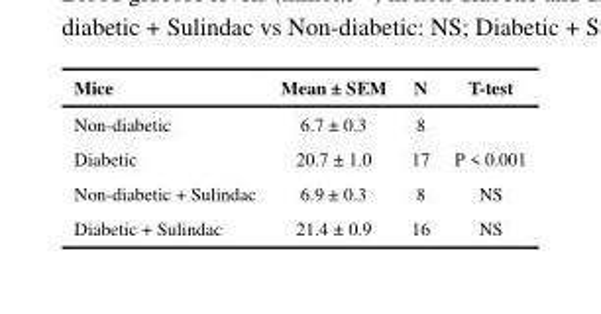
<table><thead><tr><td>Mice</td><td>Mean ± SEM</td><td>N</td><td>T-test</td></tr></thead><tbody><tr><td>Non-diabetic</td><td>6.7 ± 0.3</td><td>8</td><td></td></tr><tr><td>Diabetic</td><td>20.7 ± 1.0</td><td>17</td><td>P &lt; 0.001</td></tr><tr><td>Non-diabetic + Sulindac</td><td>6.9 ± 0.3</td><td>8</td><td>NS</td></tr><tr><td>Diabetic + Sulindac</td><td>21.4 ± 0.9</td><td>16</td><td>NS</td></tr></tbody></table>